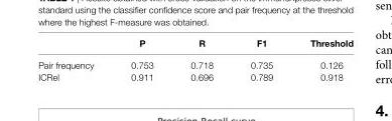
<table><thead><tr><td></td><td>P</td><td>r</td><td>F1</td><td>Threshold</td></tr></thead><tbody><tr><td>Pair frequency</td><td>0.753</td><td>0.718</td><td>0.735</td><td>0.126</td></tr><tr><td>ICRel</td><td>0.911</td><td>0.696</td><td>0.789</td><td>0.918</td></tr></tbody></table>